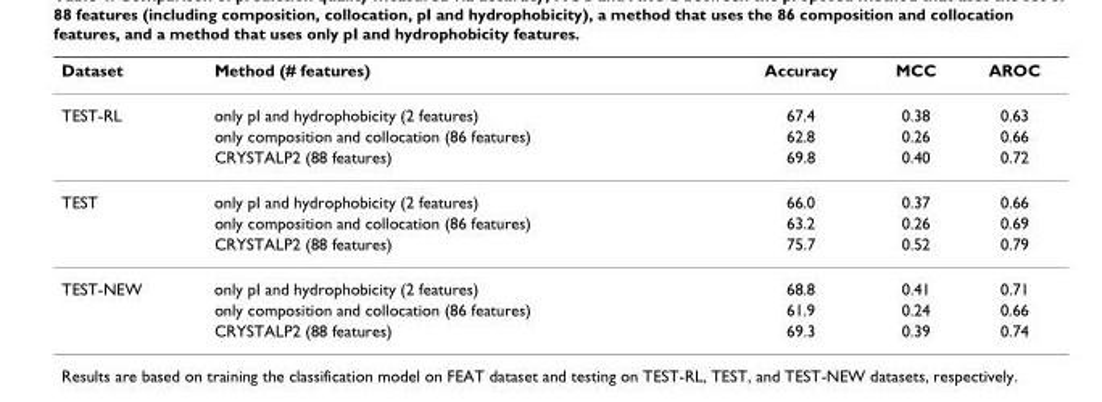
<table><thead><tr><td>Dataset</td><td>Method (# features)</td><td>Accuracy</td><td>MCC</td><td>AROC</td></tr></thead><tbody><tr><td rowspan="3">TEST-RL</td><td>only pI and hydrophobicity (2 features)</td><td>67.4</td><td>0.38</td><td>0.63</td></tr><tr><td>only composition and collocation (86 features)</td><td>62.8</td><td>0.26</td><td>0.66</td></tr><tr><td>CRYSTALP2 (88 features)</td><td>69.8</td><td>0.40</td><td>0.72</td></tr><tr><td rowspan="3">TEST</td><td>only pI and hydrophobicity (2 features)</td><td>66.0</td><td>0.37</td><td>0.66</td></tr><tr><td>only composition and collocation (86 features)</td><td>63.2</td><td>0.26</td><td>0.69</td></tr><tr><td>CRYSTALP2 (88 features)</td><td>75.7</td><td>0.52</td><td>0.79</td></tr><tr><td rowspan="3">TEST-NEW</td><td>only pI and hydrophobicity (2 features)</td><td>68.8</td><td>0.41</td><td>0.71</td></tr><tr><td>only composition and collocation (86 features)</td><td>61.9</td><td>0.24</td><td>0.66</td></tr><tr><td>CRYSTALP2 (88 features)</td><td>69.3</td><td>0.39</td><td>0.74</td></tr></tbody></table>